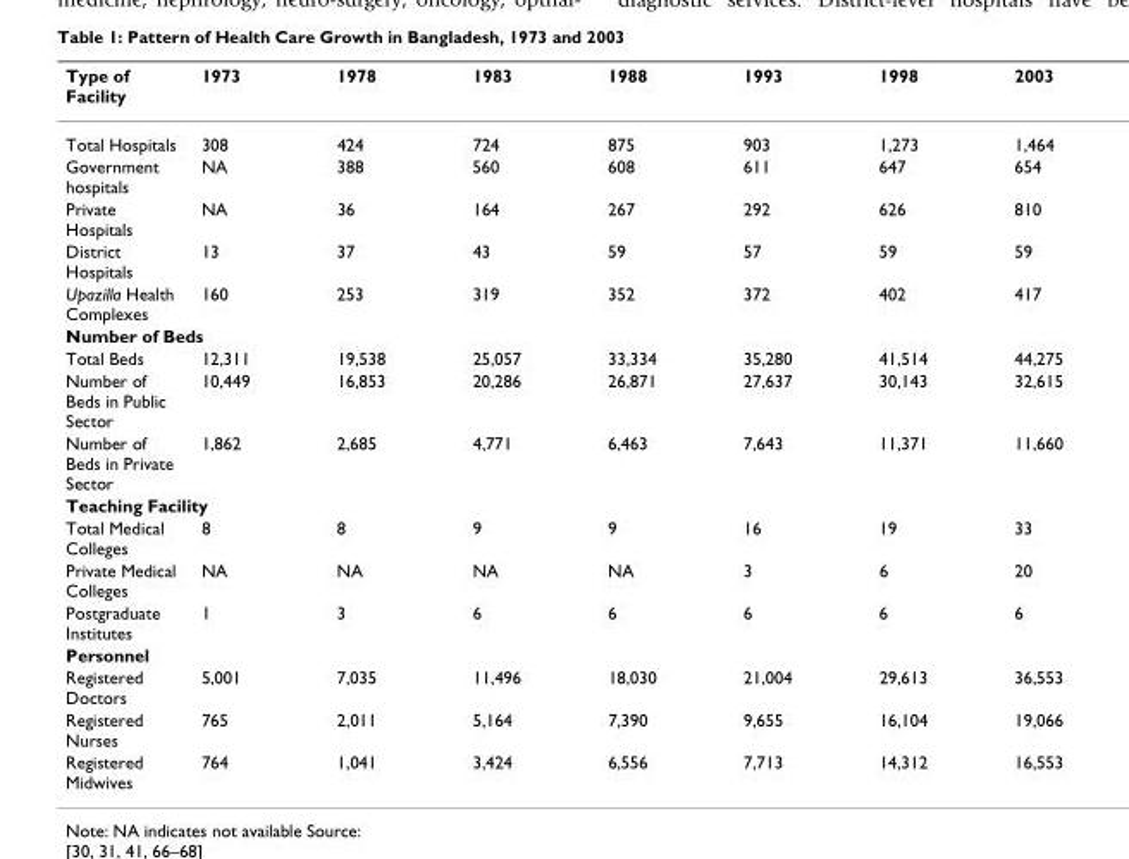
<table><thead><tr><td>Type of Facility</td><td>1973</td><td>1978</td><td>1983</td><td>1988</td><td>1993</td><td>1998</td><td>2003</td></tr></thead><tbody><tr><td>Total Hospitals</td><td>308</td><td>424</td><td>724</td><td>875</td><td>903</td><td>1,273</td><td>1,464</td></tr><tr><td>Government hospitals</td><td>NA</td><td>388</td><td>560</td><td>608</td><td>611</td><td>647</td><td>654</td></tr><tr><td>Private Hospitals</td><td>NA</td><td>36</td><td>164</td><td>267</td><td>292</td><td>626</td><td>810</td></tr><tr><td>District Hospitals</td><td>13</td><td>37</td><td>43</td><td>59</td><td>57</td><td>59</td><td>59</td></tr><tr><td>Upazilla Health Complexes</td><td>160</td><td>253</td><td>319</td><td>352</td><td>372</td><td>402</td><td>417</td></tr><tr><td colspan="8">Number of Beds</td></tr><tr><td>Total Beds</td><td>12,311</td><td>19,538</td><td>25,057</td><td>33,334</td><td>35,280</td><td>41,514</td><td>44,275</td></tr><tr><td>Number of Beds in Public Sector</td><td>10,449</td><td>16,853</td><td>20,286</td><td>26,871</td><td>27,637</td><td>30,143</td><td>32,615</td></tr><tr><td>Number of Beds in Private Sector</td><td>1,862</td><td>2,685</td><td>4,771</td><td>6,463</td><td>7,643</td><td>11,371</td><td>11,660</td></tr><tr><td colspan="8">Teaching Facility</td></tr><tr><td>Total Medical Colleges</td><td>8</td><td>8</td><td>9</td><td>9</td><td>16</td><td>19</td><td>33</td></tr><tr><td>Private Medical Colleges</td><td>NA</td><td>NA</td><td>NA</td><td>NA</td><td>3</td><td>6</td><td>20</td></tr><tr><td>Postgraduate Institutes</td><td>1</td><td>3</td><td>6</td><td>6</td><td>6</td><td>6</td><td>6</td></tr><tr><td colspan="8">Personnel</td></tr><tr><td>Registered Doctors</td><td>5,001</td><td>7,035</td><td>11,496</td><td>18,030</td><td>21,004</td><td>29,613</td><td>36,553</td></tr><tr><td>Registered Nurses</td><td>765</td><td>2,011</td><td>5,164</td><td>7,390</td><td>9,655</td><td>16,104</td><td>19,066</td></tr><tr><td>Registered Midwives</td><td>764</td><td>1,041</td><td>3,424</td><td>6,556</td><td>7,713</td><td>14,312</td><td>16,553</td></tr></tbody></table>